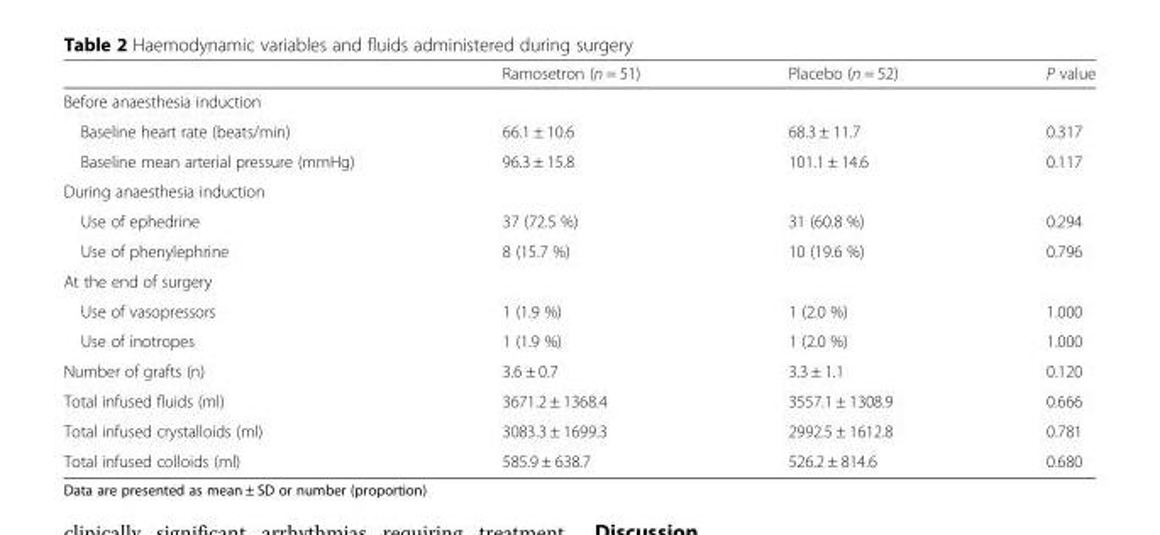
<table><thead><tr><td></td><td>Ramosetron (n = 51)</td><td>Placebo (n = 52)</td><td>P value</td></tr></thead><tbody><tr><td colspan="4">Before anaesthesia induction</td></tr><tr><td>Baseline heart rate (beats/min)</td><td>66.1 ± 10.6</td><td>68.3 ± 11.7</td><td>0.317</td></tr><tr><td>Baseline mean arterial pressure (mmHg)</td><td>96.3 ± 15.8</td><td>101.1 ± 14.6</td><td>0.117</td></tr><tr><td colspan="4">During anaesthesia induction</td></tr><tr><td>Use of ephedrine</td><td>37 (72.5 %)</td><td>31 (60.8 %)</td><td>0.294</td></tr><tr><td>Use of phenylephrine</td><td>8 (15.7 %)</td><td>10 (19.6 %)</td><td>0.796</td></tr><tr><td colspan="4">At the end of surgery</td></tr><tr><td>Use of vasopressors</td><td>1 (1.9 %)</td><td>1 (2.0 %)</td><td>1.000</td></tr><tr><td>Use of inotropes</td><td>1 (1.9 %)</td><td>1 (2.0 %)</td><td>1.000</td></tr><tr><td>Number of grafts (n)</td><td>3.6 ± 0.7</td><td>3.3 ± 1.1</td><td>0.120</td></tr><tr><td>Total infused fluids (ml)</td><td>3671.2 ± 1368.4</td><td>3557.1 ± 1308.9</td><td>0.666</td></tr><tr><td>Total infused crystalloids (ml)</td><td>3083.3 ± 1699.3</td><td>2992.5 ± 1612.8</td><td>0.781</td></tr><tr><td>Total infused colloids (ml)</td><td>585.9 ± 638.7</td><td>526.2 ± 814.6</td><td>0.680</td></tr></tbody></table>